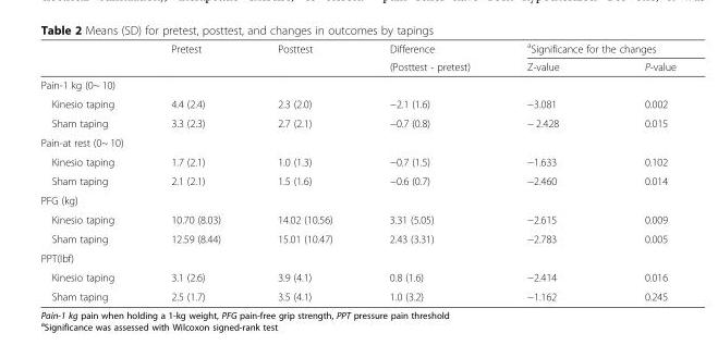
<table><thead><tr><td rowspan="2"></td><td rowspan="2">Pretest</td><td rowspan="2">Posttest</td><td rowspan="2">Difference (Posttest - pretest)</td><td colspan="2"><sup>a</sup>Significance for the changes</td></tr><tr><td>Z-value</td><td>P-value</td></tr></thead><tbody><tr><td colspan="6">Pain-1 kg (0~ 10)</td></tr><tr><td>Kinesio taping</td><td>4.4 (2.4)</td><td>2.3 (2.0)</td><td>−2.1 (1.6)</td><td>−3.081</td><td>0.002</td></tr><tr><td>Sham taping</td><td>3.3 (2.3)</td><td>2.7 (2.1)</td><td>−0.7 (0.8)</td><td>− 2.428</td><td>0.015</td></tr><tr><td colspan="6">Pain-at rest (0~ 10)</td></tr><tr><td>Kinesio taping</td><td>1.7 (2.1)</td><td>1.0 (1.3)</td><td>−0.7 (1.5)</td><td>−1.633</td><td>0.102</td></tr><tr><td>Sham taping</td><td>2.1 (2.1)</td><td>1.5 (1.6)</td><td>−0.6 (0.7)</td><td>−2.460</td><td>0.014</td></tr><tr><td colspan="6">PFG (kg)</td></tr><tr><td>Kinesio taping</td><td>10.70 (8.03)</td><td>14.02 (10.56)</td><td>3.31 (5.05)</td><td>−2.615</td><td>0.009</td></tr><tr><td>Sham taping</td><td>12.59 (8.44)</td><td>15.01 (10.47)</td><td>2.43 (3.31)</td><td>−2.783</td><td>0.005</td></tr><tr><td colspan="6">PPT(lbf)</td></tr><tr><td>Kinesio taping</td><td>3.1 (2.6)</td><td>3.9 (4.1)</td><td>0.8 (1.6)</td><td>−2.414</td><td>0.016</td></tr><tr><td>Sham taping</td><td>2.5 (1.7)</td><td>3.5 (4.1)</td><td>1.0 (3.2)</td><td>−1.162</td><td>0.245</td></tr></tbody></table>